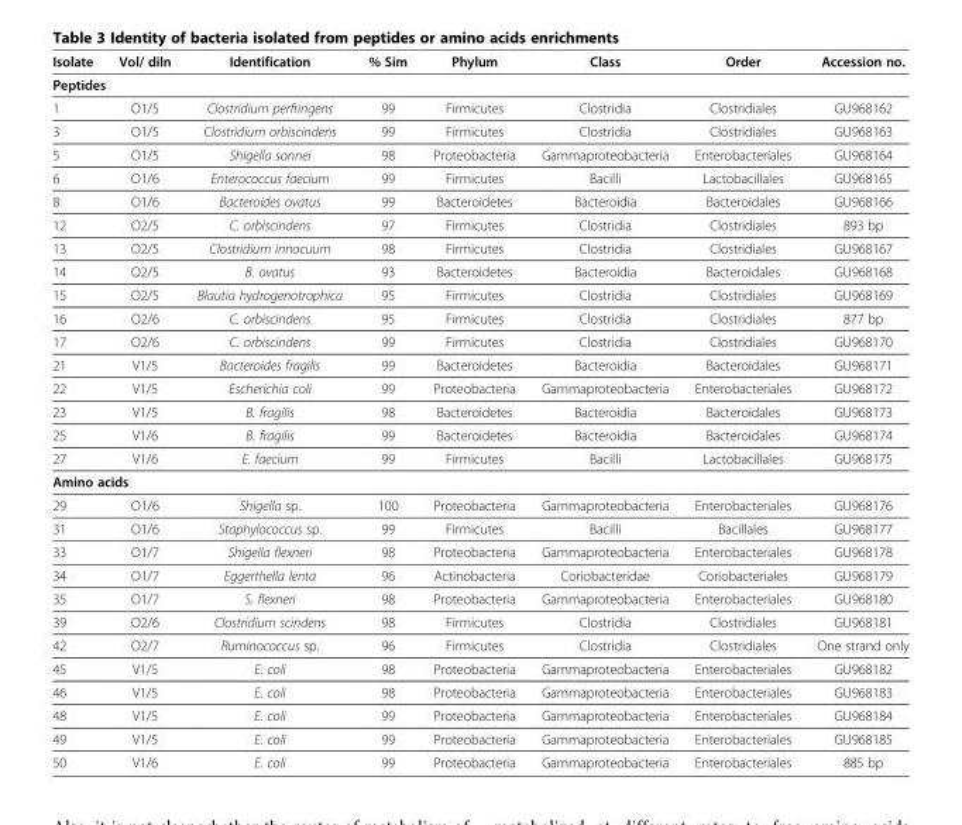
<table><thead><tr><td>Isolate</td><td>Vol/ diln</td><td>Identification</td><td>% Sim</td><td>Phylum</td><td>Class</td><td>Order</td><td>Accession no.</td></tr></thead><tbody><tr><td colspan="8">Peptides</td></tr><tr><td>1</td><td>O1/5</td><td>Clostridium perfringens</td><td>99</td><td>Firmicutes</td><td>Clostridia</td><td>Clostridiales</td><td>GU968162</td></tr><tr><td>3</td><td>O1/5</td><td>Clostridium orbiscindens</td><td>99</td><td>Firmicutes</td><td>Clostridia</td><td>Clostridiales</td><td>GU968163</td></tr><tr><td>5</td><td>O1/5</td><td>Shigella sonnei</td><td>98</td><td>Proteobacteria</td><td>Gammaproteobacteria</td><td>Enterobacteriales</td><td>GU968164</td></tr><tr><td>6</td><td>O1/6</td><td>Enterococcus faecium</td><td>99</td><td>Firmicutes</td><td>Bacilli</td><td>Lactobacillales</td><td>GU968165</td></tr><tr><td>8</td><td>O1/6</td><td>Bacteroides ovatus</td><td>99</td><td>Bacteroidetes</td><td>Bacteroidia</td><td>Bacteroidales</td><td>GU968166</td></tr><tr><td>12</td><td>O2/5</td><td>C. orbiscindens</td><td>97</td><td>Firmicutes</td><td>Clostridia</td><td>Clostridiales</td><td>893 bp</td></tr><tr><td>13</td><td>O2/5</td><td>Clostridium innocuum</td><td>98</td><td>Firmicutes</td><td>Clostridia</td><td>Clostridiales</td><td>GU968167</td></tr><tr><td>14</td><td>O2/5</td><td>B. ovatus</td><td>93</td><td>Bacteroidetes</td><td>Bacteroidia</td><td>Bacteroidales</td><td>GU968168</td></tr><tr><td>15</td><td>O2/5</td><td>Blautia hydrogenotrophica</td><td>95</td><td>Firmicutes</td><td>Clostridia</td><td>Clostridiales</td><td>GU968169</td></tr><tr><td>16</td><td>O2/6</td><td>C. orbiscindens</td><td>95</td><td>Firmicutes</td><td>Clostridia</td><td>Clostridiales</td><td>877 bp</td></tr><tr><td>17</td><td>O2/6</td><td>C. orbiscindens</td><td>99</td><td>Firmicutes</td><td>Clostridia</td><td>Clostridiales</td><td>GU968170</td></tr><tr><td>21</td><td>V1/5</td><td>Bacteroides fragilis</td><td>99</td><td>Bacteroidetes</td><td>Bacteroidia</td><td>Bacteroidales</td><td>GU968171</td></tr><tr><td>22</td><td>V1/5</td><td>Escherichia coli</td><td>99</td><td>Proteobacteria</td><td>Gammaproteobacteria</td><td>Enterobacteriales</td><td>GU968172</td></tr><tr><td>23</td><td>V1/5</td><td>B. fragilis</td><td>98</td><td>Bacteroidetes</td><td>Bacteroidia</td><td>Bacteroidales</td><td>GU968173</td></tr><tr><td>25</td><td>V1/6</td><td>B. fragilis</td><td>99</td><td>Bacteroidetes</td><td>Bacteroidia</td><td>Bacteroidales</td><td>GU968174</td></tr><tr><td>27</td><td>V1/6</td><td>E. faecium</td><td>99</td><td>Firmicutes</td><td>Bacilli</td><td>Lactobacillales</td><td>GU968175</td></tr><tr><td colspan="8">Amino acids</td></tr><tr><td>29</td><td>O1/6</td><td>Shigella sp.</td><td>100</td><td>Proteobacteria</td><td>Gammaproteobacteria</td><td>Enterobacteriales</td><td>GU968176</td></tr><tr><td>31</td><td>O1/6</td><td>Staphylococcus sp.</td><td>99</td><td>Firmicutes</td><td>Bacilli</td><td>Bacillales</td><td>GU968177</td></tr><tr><td>33</td><td>O1/7</td><td>Shigella flexneri</td><td>98</td><td>Proteobacteria</td><td>Gammaproteobacteria</td><td>Enterobacteriales</td><td>GU968178</td></tr><tr><td>34</td><td>O1/7</td><td>Eggerthella lenta</td><td>96</td><td>Actinobacteria</td><td>Coriobacteridae</td><td>Coriobacteriales</td><td>GU968179</td></tr><tr><td>35</td><td>O1/7</td><td>S. flexneri</td><td>98</td><td>Proteobacteria</td><td>Gammaproteobacteria</td><td>Enterobacteriales</td><td>GU968180</td></tr><tr><td>39</td><td>O2/6</td><td>Clostridium scindens</td><td>98</td><td>Firmicutes</td><td>Clostridia</td><td>Clostridiales</td><td>GU968181</td></tr><tr><td>42</td><td>O2/7</td><td>Ruminococcus sp.</td><td>96</td><td>Firmicutes</td><td>Clostridia</td><td>Clostridiales</td><td>One strand only</td></tr><tr><td>45</td><td>V1/5</td><td>E. coli</td><td>98</td><td>Proteobacteria</td><td>Gammaproteobacteria</td><td>Enterobacteriales</td><td>GU968182</td></tr><tr><td>46</td><td>V1/5</td><td>E. coli</td><td>98</td><td>Proteobacteria</td><td>Gammaproteobacteria</td><td>Enterobacteriales</td><td>GU968183</td></tr><tr><td>48</td><td>V1/5</td><td>E. coli</td><td>99</td><td>Proteobacteria</td><td>Gammaproteobacteria</td><td>Enterobacteriales</td><td>GU968184</td></tr><tr><td>49</td><td>V1/5</td><td>E. coli</td><td>99</td><td>Proteobacteria</td><td>Gammaproteobacteria</td><td>Enterobacteriales</td><td>GU968185</td></tr><tr><td>50</td><td>V1/6</td><td>E. coli</td><td>99</td><td>Proteobacteria</td><td>Gammaproteobacteria</td><td>Enterobacteriales</td><td>885 bp</td></tr></tbody></table>